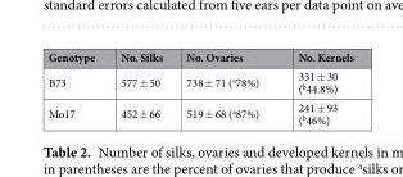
<table><thead><tr><td>Genotype</td><td>No. Silks</td><td>No. Ovaries</td><td>No. Kernels</td></tr></thead><tbody><tr><td>B73</td><td>577 ± 50</td><td>738 ± 71 (<sup>a</sup>78%)</td><td>331 ± 30 (<sup>b</sup>44.8%)</td></tr><tr><td>Mo17</td><td>452 ± 66</td><td>519 ± 68 (<sup>a</sup>87%)</td><td>241 ± 93 (<sup>b</sup>46%)</td></tr></tbody></table>